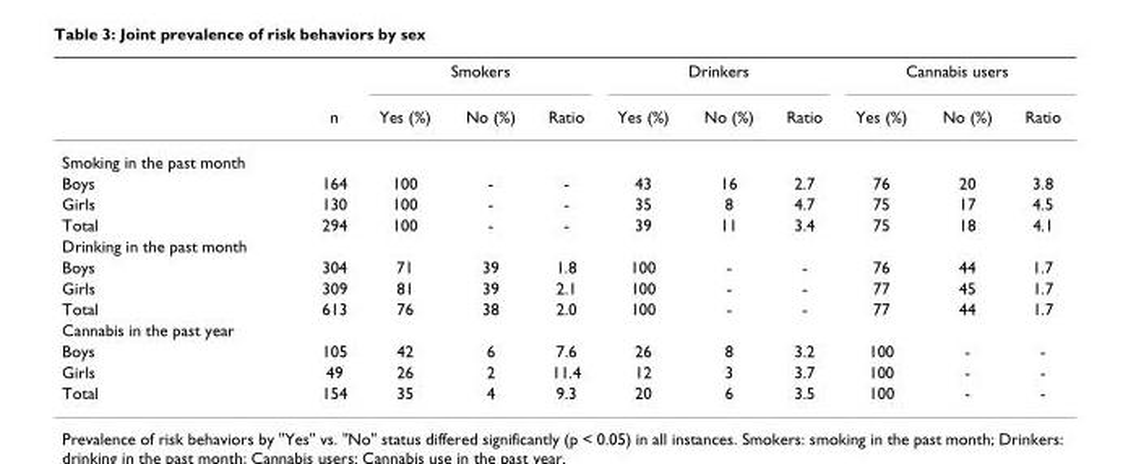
<table><thead><tr><td rowspan="2"></td><td rowspan="2">n</td><td colspan="3">Smokers</td><td colspan="3">Drinkers</td><td colspan="3">Cannabis users</td></tr><tr><td>Yes (%)</td><td>No (%)</td><td>Ratio</td><td>Yes (%)</td><td>No (%)</td><td>Ratio</td><td>Yes (%)</td><td>No (%)</td><td>Ratio</td></tr></thead><tbody><tr><td colspan="11">Smoking in the past month</td></tr><tr><td>Boys</td><td>164</td><td>100</td><td>-</td><td>-</td><td>43</td><td>16</td><td>2.7</td><td>76</td><td>20</td><td>3.8</td></tr><tr><td>Girls</td><td>130</td><td>100</td><td>-</td><td>-</td><td>35</td><td>8</td><td>4.7</td><td>75</td><td>17</td><td>4.5</td></tr><tr><td>Total</td><td>294</td><td>100</td><td>-</td><td>-</td><td>39</td><td>11</td><td>3.4</td><td>75</td><td>18</td><td>4.1</td></tr><tr><td colspan="11">Drinking in the past month</td></tr><tr><td>Boys</td><td>304</td><td>71</td><td>39</td><td>1.8</td><td>100</td><td>-</td><td>-</td><td>76</td><td>44</td><td>1.7</td></tr><tr><td>Girls</td><td>309</td><td>81</td><td>39</td><td>2.1</td><td>100</td><td>-</td><td>-</td><td>77</td><td>45</td><td>1.7</td></tr><tr><td>Total</td><td>613</td><td>76</td><td>38</td><td>2.0</td><td>100</td><td>-</td><td>-</td><td>77</td><td>44</td><td>1.7</td></tr><tr><td colspan="11">Cannabis in the past year</td></tr><tr><td>Boys</td><td>105</td><td>42</td><td>6</td><td>7.6</td><td>26</td><td>8</td><td>3.2</td><td>100</td><td>-</td><td>-</td></tr><tr><td>Girls</td><td>49</td><td>26</td><td>2</td><td>11.4</td><td>12</td><td>3</td><td>3.7</td><td>100</td><td>-</td><td>-</td></tr><tr><td>Total</td><td>154</td><td>35</td><td>4</td><td>9.3</td><td>20</td><td>6</td><td>3.5</td><td>100</td><td>-</td><td>-</td></tr></tbody></table>